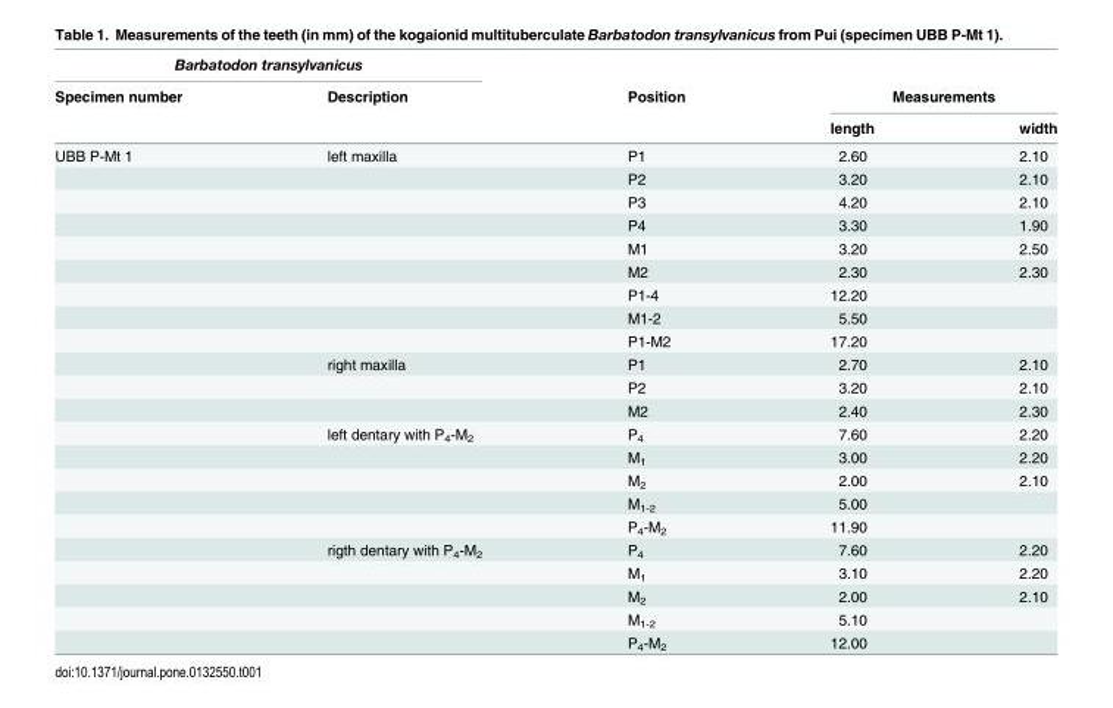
<table><thead><tr><td colspan="2">Barbatodon transylvanicus</td><td rowspan="3">Position</td><td></td><td></td></tr><tr><td rowspan="2">Specimen number</td><td rowspan="2">Description</td><td colspan="2">Measurements</td></tr><tr><td>length</td><td>width</td></tr></thead><tbody><tr><td rowspan="22">UBB P-Mt 1</td><td>left maxilla</td><td>P1</td><td>2.60</td><td>2.10</td></tr><tr><td></td><td>P2</td><td>3.20</td><td>2.10</td></tr><tr><td></td><td>P3</td><td>4.20</td><td>2.10</td></tr><tr><td></td><td>P4</td><td>3.30</td><td>1.90</td></tr><tr><td></td><td>M1</td><td>3.20</td><td>2.50</td></tr><tr><td></td><td>M2</td><td>2.30</td><td>2.30</td></tr><tr><td></td><td>P1-4</td><td>12.20</td><td></td></tr><tr><td></td><td>M1-2</td><td>5.50</td><td></td></tr><tr><td></td><td>P1-M2</td><td>17.20</td><td></td></tr><tr><td>right maxilla</td><td>P1</td><td>2.70</td><td>2.10</td></tr><tr><td></td><td>P2</td><td>3.20</td><td>2.10</td></tr><tr><td></td><td>M2</td><td>2.40</td><td>2.30</td></tr><tr><td>left dentary with P<sub>4</sub>-M<sub>2</sub></td><td>P<sub>4</sub></td><td>7.60</td><td>2.20</td></tr><tr><td></td><td>M<sub>1</sub></td><td>3.00</td><td>2.20</td></tr><tr><td></td><td>M<sub>2</sub></td><td>2.00</td><td>2.10</td></tr><tr><td></td><td>M<sub>1-2</sub></td><td>5.00</td><td></td></tr><tr><td></td><td>P<sub>4</sub>-M<sub>2</sub></td><td>11.90</td><td></td></tr><tr><td>rigth dentary with P<sub>4</sub>-M<sub>2</sub></td><td>P<sub>4</sub></td><td>7.60</td><td>2.20</td></tr><tr><td></td><td>M<sub>1</sub></td><td>3.10</td><td>2.20</td></tr><tr><td></td><td>M<sub>2</sub></td><td>2.00</td><td>2.10</td></tr><tr><td></td><td>M<sub>1-2</sub></td><td>5.10</td><td></td></tr><tr><td></td><td>P<sub>4</sub>-M<sub>2</sub></td><td>12.00</td><td></td></tr></tbody></table>